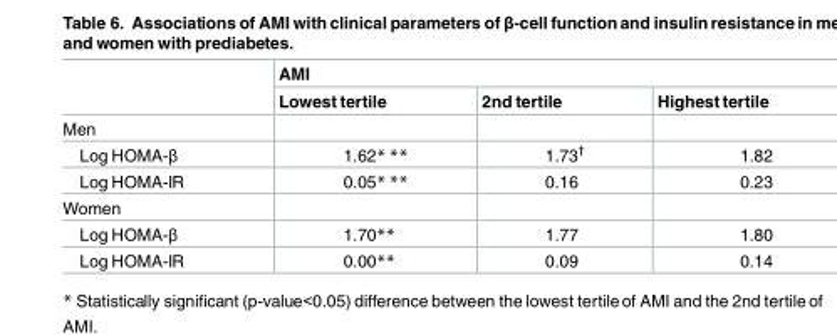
<table><thead><tr><td rowspan="2"></td><td colspan="3">AMI</td></tr><tr><td>Lowest tertile</td><td>2nd tertile</td><td>Highest tertile</td></tr></thead><tbody><tr><td colspan="4">Men</td></tr><tr><td>Log HOMA-β</td><td>1.62* **</td><td>1.73<sup>†</sup></td><td>1.82</td></tr><tr><td>Log HOMA-IR</td><td>0.05* **</td><td>0.16</td><td>0.23</td></tr><tr><td colspan="4">Women</td></tr><tr><td>Log HOMA-β</td><td>1.70**</td><td>1.77</td><td>1.80</td></tr><tr><td>Log HOMA-IR</td><td>0.00**</td><td>0.09</td><td>0.14</td></tr></tbody></table>